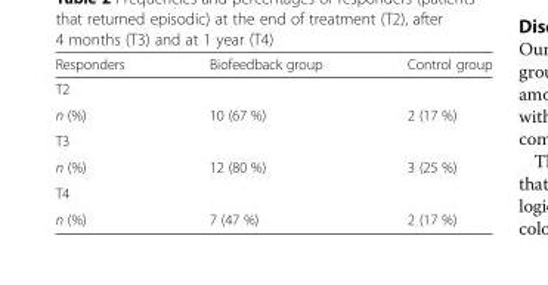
<table><thead><tr><td>Responders</td><td>Biofeedback group</td><td>Control group</td></tr></thead><tbody><tr><td colspan="3">T2</td></tr><tr><td>n (%)</td><td>10 (67 %)</td><td>2 (17 %)</td></tr><tr><td colspan="3">T3</td></tr><tr><td>n (%)</td><td>12 (80 %)</td><td>3 (25 %)</td></tr><tr><td colspan="3">T4</td></tr><tr><td>n (%)</td><td>7 (47 %)</td><td>2 (17 %)</td></tr></tbody></table>